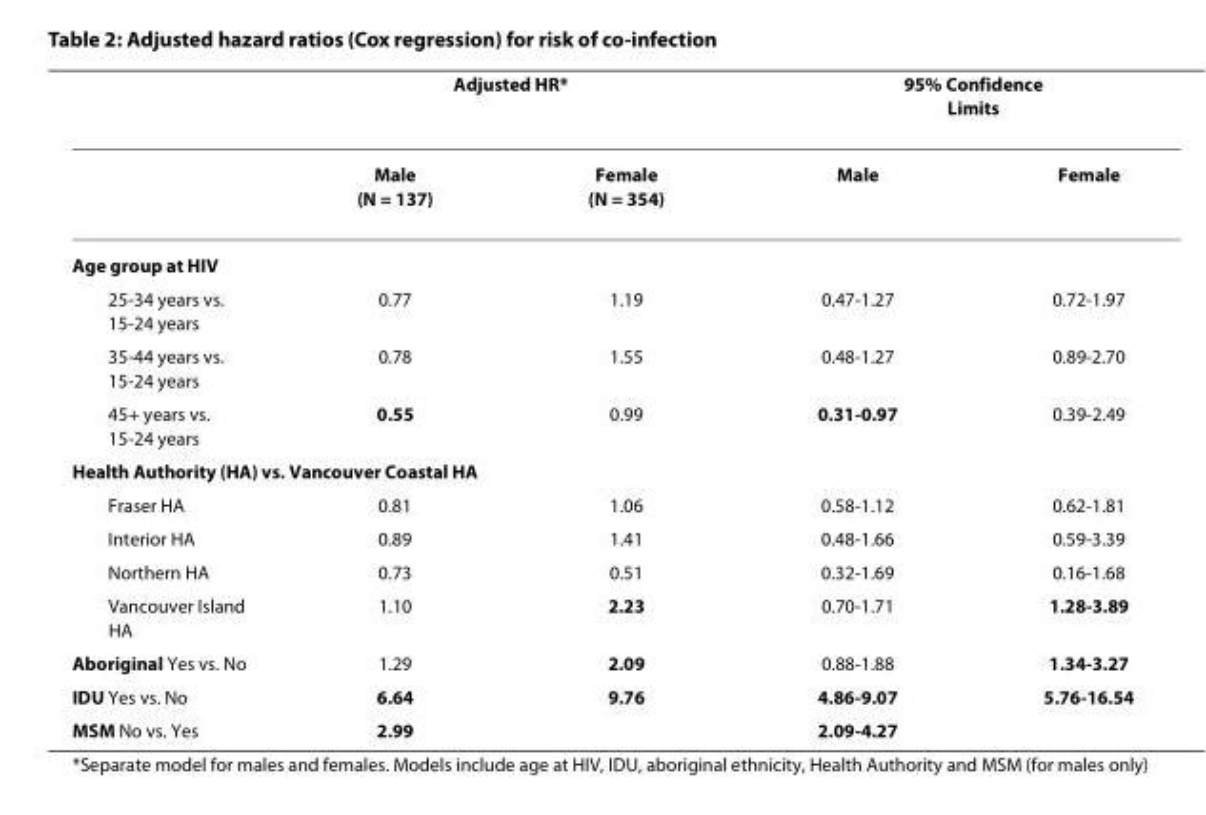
<table><thead><tr><td rowspan="2"></td><td colspan="2">Adjusted HR*</td><td colspan="2">95% Confidence Limits</td></tr><tr><td>Male (N = 137)</td><td>Female (N = 354)</td><td>Male</td><td>Female</td></tr></thead><tbody><tr><td colspan="5">Age group at HIV</td></tr><tr><td>25-34 years vs. 15-24 years</td><td>0.77</td><td>1.19</td><td>0.47-1.27</td><td>0.72-1.97</td></tr><tr><td>35-44 years vs. 15-24 years</td><td>0.78</td><td>1.55</td><td>0.48-1.27</td><td>0.89-2.70</td></tr><tr><td>45+ years vs. 15-24 years</td><td>0.55</td><td>0.99</td><td>0.31-0.97</td><td>0.39-2.49</td></tr><tr><td colspan="5">Health Authority (HA) vs. Vancouver Coastal HA</td></tr><tr><td>Fraser HA</td><td>0.81</td><td>1.06</td><td>0.58-1.12</td><td>0.62-1.81</td></tr><tr><td>Interior HA</td><td>0.89</td><td>1.41</td><td>0.48-1.66</td><td>0.59-3.39</td></tr><tr><td>Northern HA</td><td>0.73</td><td>0.51</td><td>0.32-1.69</td><td>0.16-1.68</td></tr><tr><td>Vancouver Island HA</td><td>1.10</td><td>2.23</td><td>0.70-1.71</td><td>1.28-3.89</td></tr><tr><td>Aboriginal Yes vs. No</td><td>1.29</td><td>2.09</td><td>0.88-1.88</td><td>1.34-3.27</td></tr><tr><td>IDU Yes vs. No</td><td>6.64</td><td>9.76</td><td>4.86-9.07</td><td>5.76-16.54</td></tr><tr><td>MSM No vs. Yes</td><td>2.99</td><td></td><td>2.09-4.27</td><td></td></tr></tbody></table>